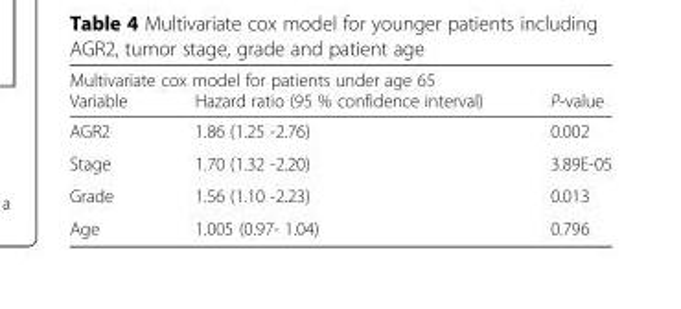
<table><thead><tr><td colspan="3">Multivariate cox model for patients under age 65</td></tr><tr><td>Variable</td><td>Hazard ratio (95 % confidence interval)</td><td>P-value</td></tr></thead><tbody><tr><td>AGR2</td><td>1.86 (1.25 -2.76)</td><td>0.002</td></tr><tr><td>Stage</td><td>1.70 (1.32 -2.20)</td><td>3.89E-05</td></tr><tr><td>Grade</td><td>1.56 (1.10 -2.23)</td><td>0.013</td></tr><tr><td>Age</td><td>1.005 (0.97- 1.04)</td><td>0.796</td></tr></tbody></table>